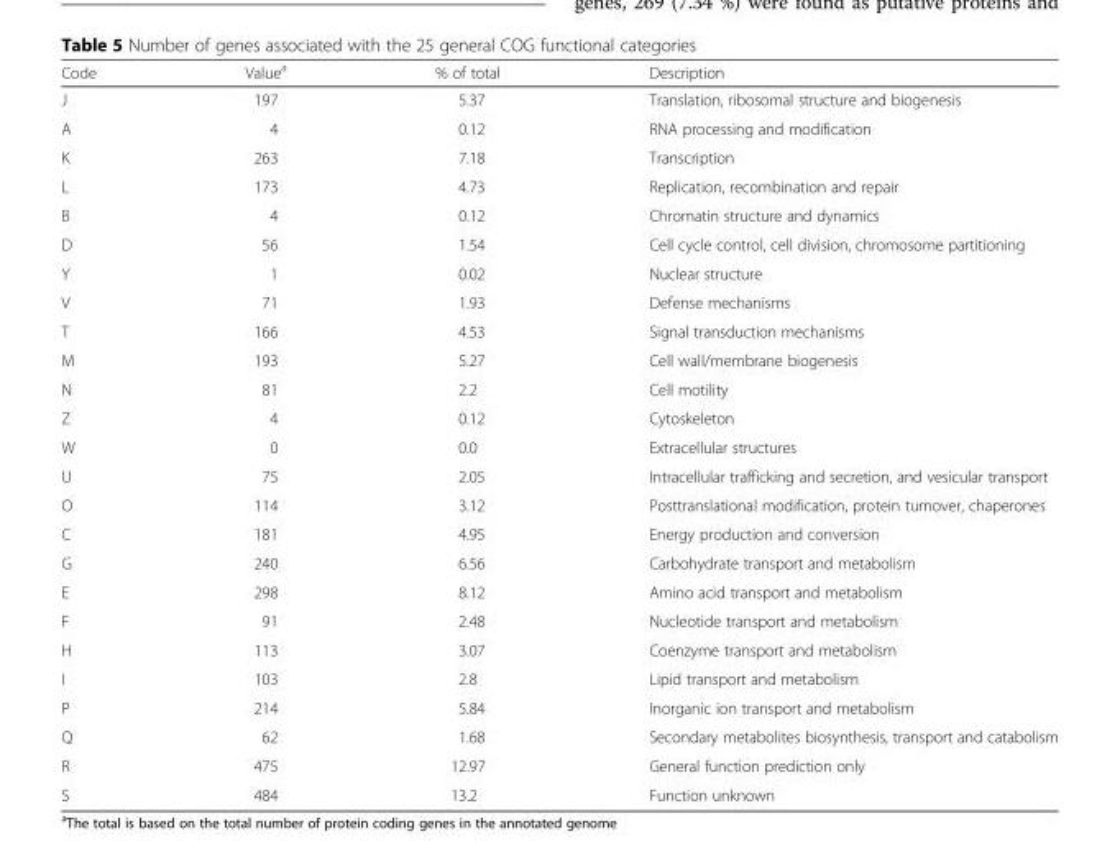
<table><thead><tr><td>Code</td><td>Value<sup>a</sup></td><td>% of total</td><td>Description</td></tr></thead><tbody><tr><td>J</td><td>197</td><td>5.37</td><td>Translation, ribosomal structure and biogenesis</td></tr><tr><td>A</td><td>4</td><td>0.12</td><td>RNA processing and modification</td></tr><tr><td>K</td><td>263</td><td>7.18</td><td>Transcription</td></tr><tr><td>L</td><td>173</td><td>4.73</td><td>Replication, recombination and repair</td></tr><tr><td>B</td><td>4</td><td>0.12</td><td>Chromatin structure and dynamics</td></tr><tr><td>D</td><td>56</td><td>1.54</td><td>Cell cycle control, cell division, chromosome partitioning</td></tr><tr><td>Y</td><td>1</td><td>0.02</td><td>Nuclear structure</td></tr><tr><td>V</td><td>71</td><td>1.93</td><td>Defense mechanisms</td></tr><tr><td>T</td><td>166</td><td>4.53</td><td>Signal transduction mechanisms</td></tr><tr><td>M</td><td>193</td><td>5.27</td><td>Cell wall/membrane biogenesis</td></tr><tr><td>N</td><td>81</td><td>2.2</td><td>Cell motility</td></tr><tr><td>Z</td><td>4</td><td>0.12</td><td>Cytoskeleton</td></tr><tr><td>W</td><td>0</td><td>0.0</td><td>Extracellular structures</td></tr><tr><td>U</td><td>75</td><td>2.05</td><td>Intracellular trafficking and secretion, and vesicular transport</td></tr><tr><td>O</td><td>114</td><td>3.12</td><td>Posttranslational modification, protein turnover, chaperones</td></tr><tr><td>C</td><td>181</td><td>4.95</td><td>Energy production and conversion</td></tr><tr><td>G</td><td>240</td><td>6.56</td><td>Carbohydrate transport and metabolism</td></tr><tr><td>E</td><td>298</td><td>8.12</td><td>Amino acid transport and metabolism</td></tr><tr><td>F</td><td>91</td><td>2.48</td><td>Nucleotide transport and metabolism</td></tr><tr><td>H</td><td>113</td><td>3.07</td><td>Coenzyme transport and metabolism</td></tr><tr><td>I</td><td>103</td><td>2.8</td><td>Lipid transport and metabolism</td></tr><tr><td>P</td><td>214</td><td>5.84</td><td>Inorganic ion transport and metabolism</td></tr><tr><td>Q</td><td>62</td><td>1.68</td><td>Secondary metabolites biosynthesis, transport and catabolism</td></tr><tr><td>R</td><td>475</td><td>12.97</td><td>General function prediction only</td></tr><tr><td>S</td><td>484</td><td>13.2</td><td>Function unknown</td></tr></tbody></table>